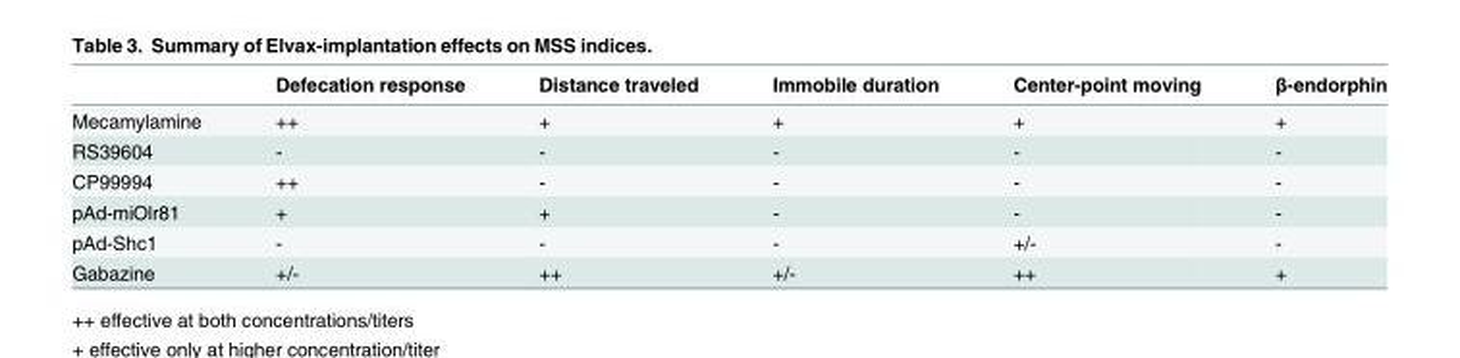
<table><thead><tr><td></td><td>Defecation response</td><td>Distance traveled</td><td>Immobile duration</td><td>Center-point moving</td><td>β-endorphin</td></tr></thead><tbody><tr><td>Mecamylamine</td><td>++</td><td>+</td><td>+</td><td>+</td><td>+</td></tr><tr><td>RS39604</td><td>-</td><td>-</td><td>-</td><td>-</td><td>-</td></tr><tr><td>CP99994</td><td>++</td><td>-</td><td>-</td><td>-</td><td>-</td></tr><tr><td>pAd-miOlr81</td><td>+</td><td>+</td><td>-</td><td>-</td><td>-</td></tr><tr><td>pAd-Shc1</td><td>-</td><td>-</td><td>-</td><td>+/-</td><td>-</td></tr><tr><td>Gabazine</td><td>+/-</td><td>++</td><td>+/-</td><td>++</td><td>+</td></tr></tbody></table>